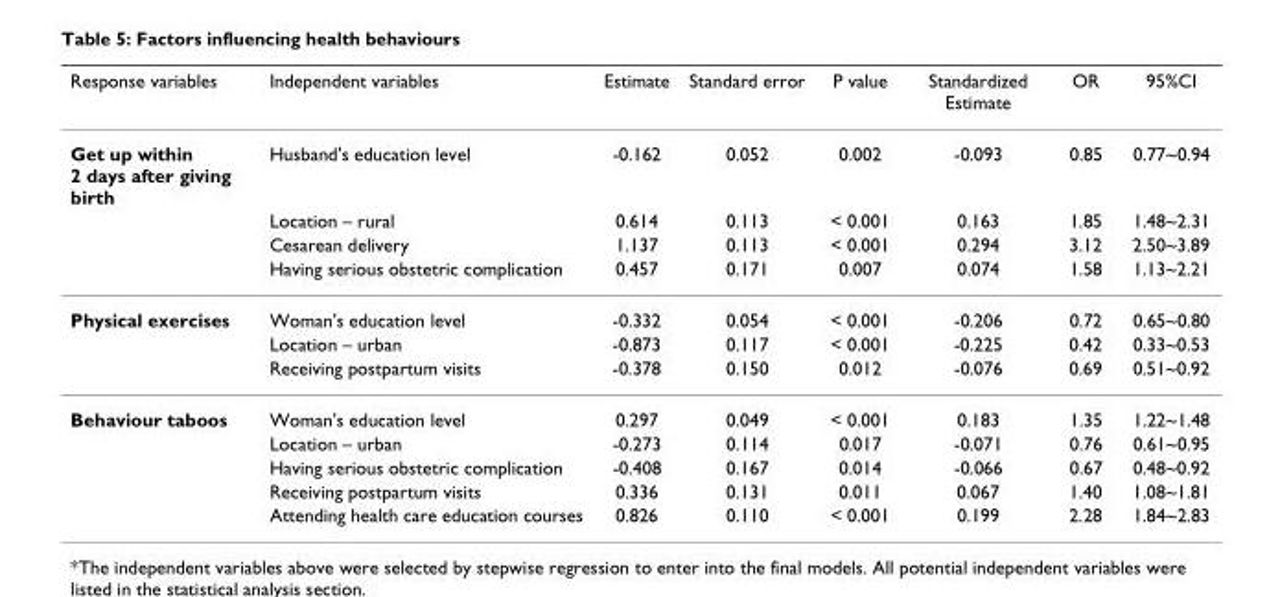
<table><thead><tr><td>Response variables</td><td>Independent variables</td><td>Estimate</td><td>Standard error</td><td>P value</td><td>Standardized Estimate</td><td>OR</td><td>95%CI</td></tr></thead><tbody><tr><td rowspan="4">Get up within 2 days after giving birth</td><td>Husband&#x27;s education level</td><td>-0.162</td><td>0.052</td><td>0.002</td><td>-0.093</td><td>0.85</td><td>0.77~0.94</td></tr><tr><td>Location – rural</td><td>0.614</td><td>0.113</td><td>&lt; 0.001</td><td>0.163</td><td>1.85</td><td>1.48~2.31</td></tr><tr><td>Cesarean delivery</td><td>1.137</td><td>0.113</td><td>&lt; 0.001</td><td>0.294</td><td>3.12</td><td>2.50~3.89</td></tr><tr><td>Having serious obstetric complication</td><td>0.457</td><td>0.171</td><td>0.007</td><td>0.074</td><td>1.58</td><td>1.13~2.21</td></tr><tr><td rowspan="3">Physical exercises</td><td>Woman&#x27;s education level</td><td>-0.332</td><td>0.054</td><td>&lt; 0.001</td><td>-0.206</td><td>0.72</td><td>0.65~0.80</td></tr><tr><td>Location – urban</td><td>-0.873</td><td>0.117</td><td>&lt; 0.001</td><td>-0.225</td><td>0.42</td><td>0.33~0.53</td></tr><tr><td>Receiving postpartum visits</td><td>-0.378</td><td>0.150</td><td>0.012</td><td>-0.076</td><td>0.69</td><td>0.51~0.92</td></tr><tr><td rowspan="5">Behaviour taboos</td><td>Woman&#x27;s education level</td><td>0.297</td><td>0.049</td><td>&lt; 0.001</td><td>0.183</td><td>1.35</td><td>1.22~1.48</td></tr><tr><td>Location – urban</td><td>-0.273</td><td>0.114</td><td>0.017</td><td>-0.071</td><td>0.76</td><td>0.61~0.95</td></tr><tr><td>Having serious obstetric complication</td><td>-0.408</td><td>0.167</td><td>0.014</td><td>-0.066</td><td>0.67</td><td>0.48~0.92</td></tr><tr><td>Receiving postpartum visits</td><td>0.336</td><td>0.131</td><td>0.011</td><td>0.067</td><td>1.40</td><td>1.08~1.81</td></tr><tr><td>Attending health care education courses</td><td>0.826</td><td>0.110</td><td>&lt; 0.001</td><td>0.199</td><td>2.28</td><td>1.84~2.83</td></tr></tbody></table>